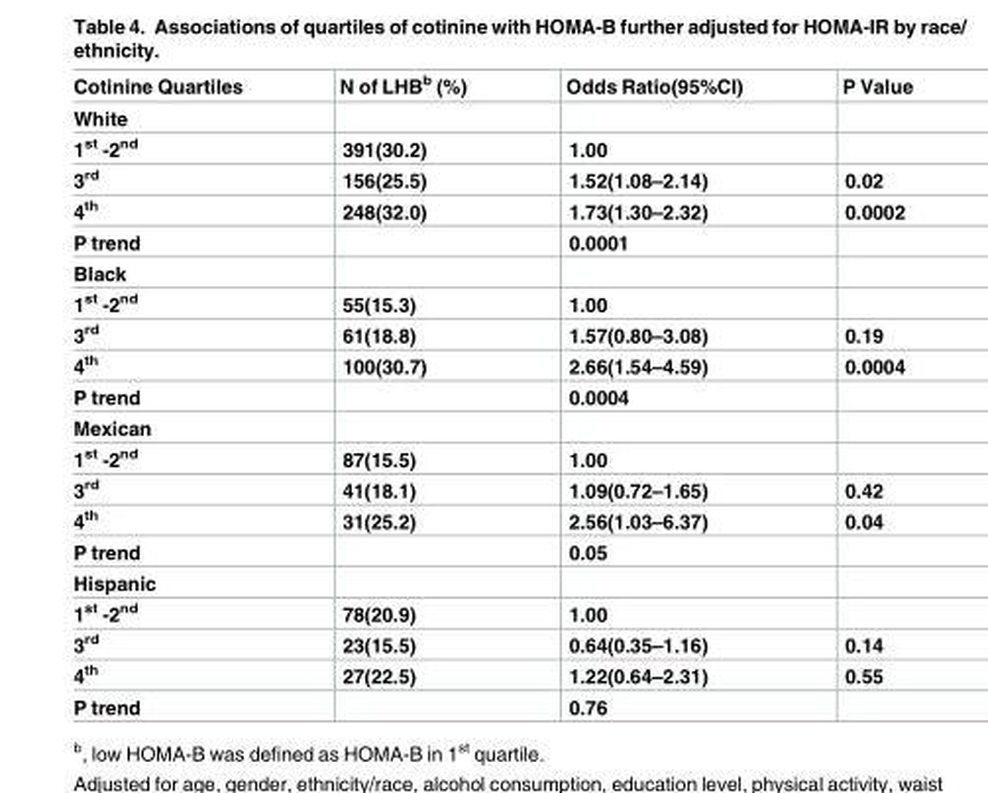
<table><thead><tr><td>Cotinine Quartiles</td><td>N of LHB<sup>b</sup> (%)</td><td>Odds Ratio(95%CI)</td><td>P Value</td></tr></thead><tbody><tr><td colspan="4">White</td></tr><tr><td>1<sup>st</sup> -2<sup>nd</sup></td><td>391(30.2)</td><td>1.00</td><td></td></tr><tr><td>3<sup>rd</sup></td><td>156(25.5)</td><td>1.52(1.08–2.14)</td><td>0.02</td></tr><tr><td>4<sup>th</sup></td><td>248(32.0)</td><td>1.73(1.30–2.32)</td><td>0.0002</td></tr><tr><td>P trend</td><td></td><td>0.0001</td><td></td></tr><tr><td colspan="4">Black</td></tr><tr><td>1<sup>st</sup> -2<sup>nd</sup></td><td>55(15.3)</td><td>1.00</td><td></td></tr><tr><td>3<sup>rd</sup></td><td>61(18.8)</td><td>1.57(0.80–3.08)</td><td>0.19</td></tr><tr><td>4<sup>th</sup></td><td>100(30.7)</td><td>2.66(1.54–4.59)</td><td>0.0004</td></tr><tr><td>P trend</td><td></td><td>0.0004</td><td></td></tr><tr><td colspan="4">Mexican</td></tr><tr><td>1<sup>st</sup> -2<sup>nd</sup></td><td>87(15.5)</td><td>1.00</td><td></td></tr><tr><td>3<sup>rd</sup></td><td>41(18.1)</td><td>1.09(0.72–1.65)</td><td>0.42</td></tr><tr><td>4<sup>th</sup></td><td>31(25.2)</td><td>2.56(1.03–6.37)</td><td>0.04</td></tr><tr><td>P trend</td><td></td><td>0.05</td><td></td></tr><tr><td colspan="4">Hispanic</td></tr><tr><td>1<sup>st</sup> -2<sup>nd</sup></td><td>78(20.9)</td><td>1.00</td><td></td></tr><tr><td>3<sup>rd</sup></td><td>23(15.5)</td><td>0.64(0.35–1.16)</td><td>0.14</td></tr><tr><td>4<sup>th</sup></td><td>27(22.5)</td><td>1.22(0.64–2.31)</td><td>0.55</td></tr><tr><td>P trend</td><td></td><td>0.76</td><td></td></tr></tbody></table>